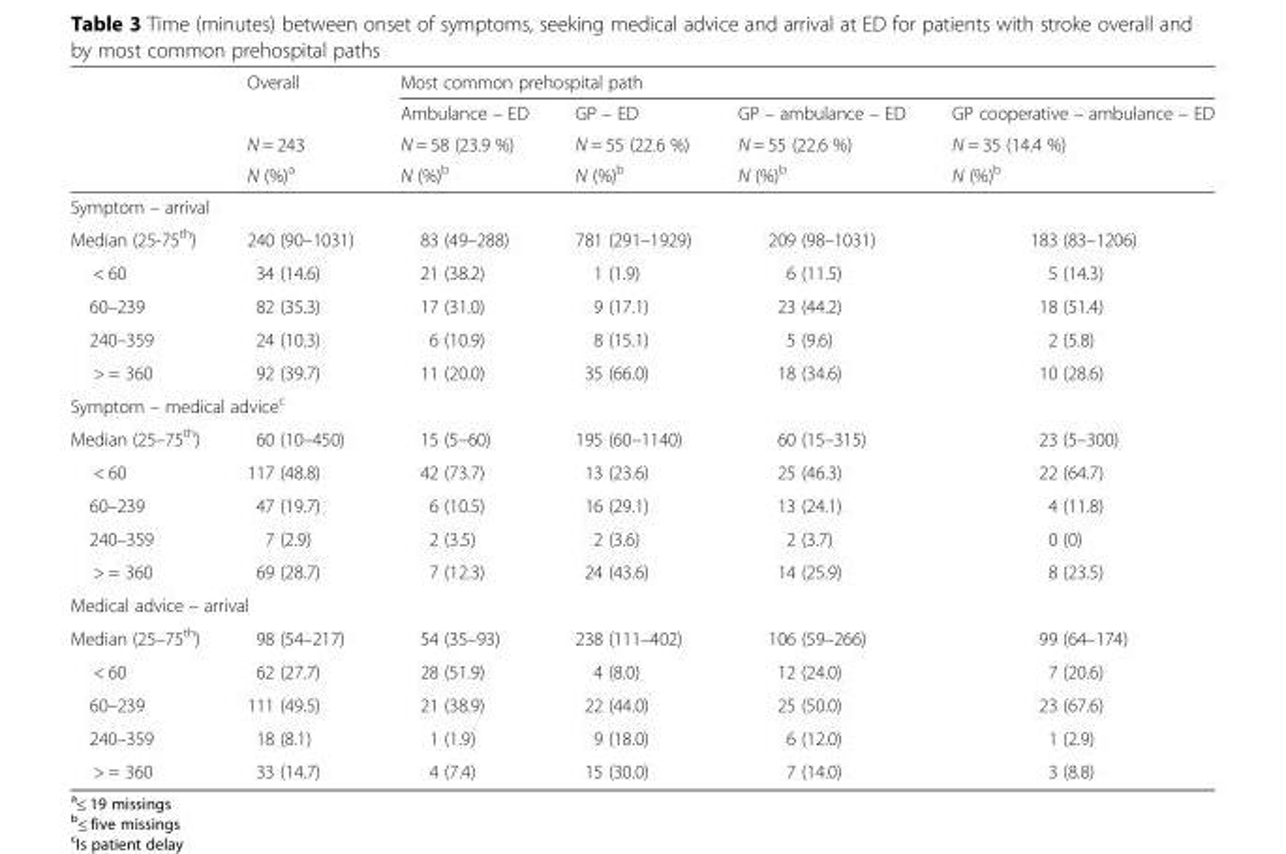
<table><thead><tr><td rowspan="4"></td><td rowspan="4">Overall N = 243 N (%)<sup>a</sup></td><td colspan="4">Most common prehospital path</td></tr><tr><td rowspan="3">Ambulance – ED N = 58 (23.9 %) N (%)<sup>b</sup></td><td rowspan="3">GP – ED N = 55 (22.6 %) N (%)<sup>b</sup></td><td rowspan="3">GP – ambulance – ED N = 55 (22.6 %) N (%)<sup>b</sup></td><td rowspan="3">GP cooperative – ambulance – ED N = 35 (14.4 %) N (%)<sup>b</sup></td></tr><tr></tr><tr></tr></thead><tbody><tr><td colspan="6">Symptom – arrival</td></tr><tr><td>Median (25-75<sup>th</sup>)</td><td>240 (90–1031)</td><td>83 (49–288)</td><td>781 (291–1929)</td><td>209 (98–1031)</td><td>183 (83–1206)</td></tr><tr><td>&lt; 60</td><td>34 (14.6)</td><td>21 (38.2)</td><td>1 (1.9)</td><td>6 (11.5)</td><td>5 (14.3)</td></tr><tr><td>60–239</td><td>82 (35.3)</td><td>17 (31.0)</td><td>9 (17.1)</td><td>23 (44.2)</td><td>18 (51.4)</td></tr><tr><td>240–359</td><td>24 (10.3)</td><td>6 (10.9)</td><td>8 (15.1)</td><td>5 (9.6)</td><td>2 (5.8)</td></tr><tr><td>&gt; = 360</td><td>92 (39.7)</td><td>11 (20.0)</td><td>35 (66.0)</td><td>18 (34.6)</td><td>10 (28.6)</td></tr><tr><td colspan="6">Symptom – medical advice<sup>c</sup></td></tr><tr><td>Median (25–75<sup>th</sup>)</td><td>60 (10–450)</td><td>15 (5–60)</td><td>195 (60–1140)</td><td>60 (15–315)</td><td>23 (5–300)</td></tr><tr><td>&lt; 60</td><td>117 (48.8)</td><td>42 (73.7)</td><td>13 (23.6)</td><td>25 (46.3)</td><td>22 (64.7)</td></tr><tr><td>60–239</td><td>47 (19.7)</td><td>6 (10.5)</td><td>16 (29.1)</td><td>13 (24.1)</td><td>4 (11.8)</td></tr><tr><td>240–359</td><td>7 (2.9)</td><td>2 (3.5)</td><td>2 (3.6)</td><td>2 (3.7)</td><td>0 (0)</td></tr><tr><td>&gt; = 360</td><td>69 (28.7)</td><td>7 (12.3)</td><td>24 (43.6)</td><td>14 (25.9)</td><td>8 (23.5)</td></tr><tr><td colspan="6">Medical advice – arrival</td></tr><tr><td>Median (25–75<sup>th</sup>)</td><td>98 (54–217)</td><td>54 (35–93)</td><td>238 (111–402)</td><td>106 (59–266)</td><td>99 (64–174)</td></tr><tr><td>&lt; 60</td><td>62 (27.7)</td><td>28 (51.9)</td><td>4 (8.0)</td><td>12 (24.0)</td><td>7 (20.6)</td></tr><tr><td>60–239</td><td>111 (49.5)</td><td>21 (38.9)</td><td>22 (44.0)</td><td>25 (50.0)</td><td>23 (67.6)</td></tr><tr><td>240–359</td><td>18 (8.1)</td><td>1 (1.9)</td><td>9 (18.0)</td><td>6 (12.0)</td><td>1 (2.9)</td></tr><tr><td>&gt; = 360</td><td>33 (14.7)</td><td>4 (7.4)</td><td>15 (30.0)</td><td>7 (14.0)</td><td>3 (8.8)</td></tr></tbody></table>